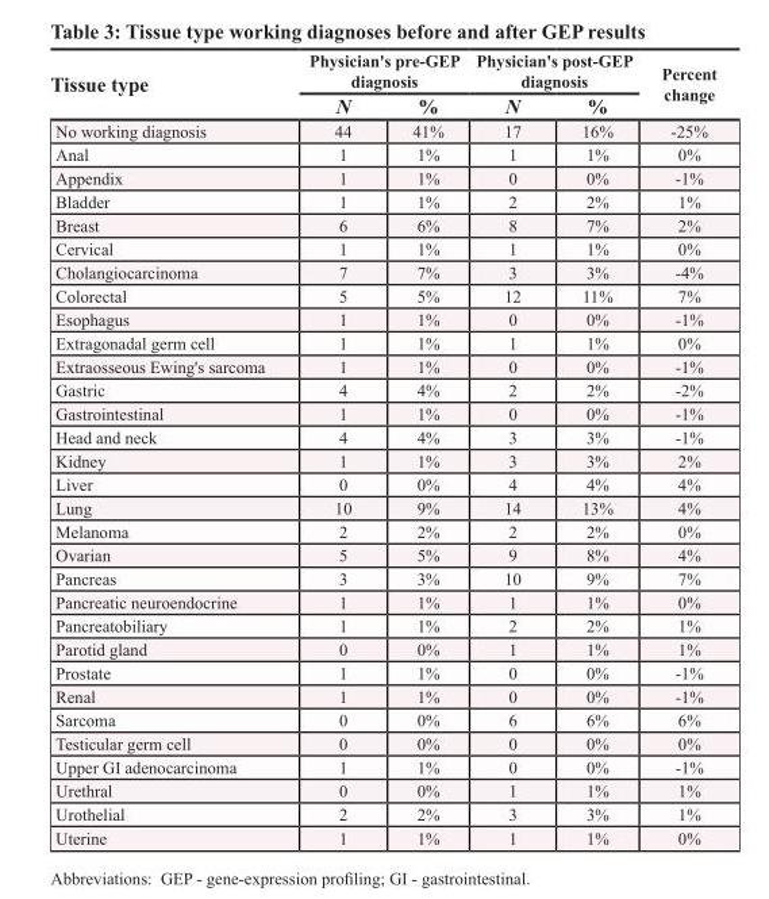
<table><thead><tr><td rowspan="2">Tissue type</td><td colspan="2">Physician&#x27;s pre-GEP diagnosis</td><td colspan="2">Physician&#x27;s post-GEP diagnosis</td><td rowspan="2">Percent change</td></tr><tr><td>N</td><td>%</td><td>N</td><td>%</td></tr></thead><tbody><tr><td>No working diagnosis</td><td>44</td><td>41%</td><td>17</td><td>16%</td><td>-25%</td></tr><tr><td>Anal</td><td>1</td><td>1%</td><td>1</td><td>1%</td><td>0%</td></tr><tr><td>Appendix</td><td>1</td><td>1%</td><td>0</td><td>0%</td><td>-1%</td></tr><tr><td>Bladder</td><td>1</td><td>1%</td><td>2</td><td>2%</td><td>1%</td></tr><tr><td>Breast</td><td>6</td><td>6%</td><td>8</td><td>7%</td><td>2%</td></tr><tr><td>Cervical</td><td>1</td><td>1%</td><td>1</td><td>1%</td><td>0%</td></tr><tr><td>Cholangiocarcinoma</td><td>7</td><td>7%</td><td>3</td><td>3%</td><td>-4%</td></tr><tr><td>Colorectal</td><td>5</td><td>5%</td><td>12</td><td>11%</td><td>7%</td></tr><tr><td>Esophagus</td><td>1</td><td>1%</td><td>0</td><td>0%</td><td>-1%</td></tr><tr><td>Extragonadal germ cell</td><td>1</td><td>1%</td><td>1</td><td>1%</td><td>0%</td></tr><tr><td>Extraosseous Ewing&#x27;s sarcoma</td><td>1</td><td>1%</td><td>0</td><td>0%</td><td>-1%</td></tr><tr><td>Gastric</td><td>4</td><td>4%</td><td>2</td><td>2%</td><td>-2%</td></tr><tr><td>Gastrointestinal</td><td>1</td><td>1%</td><td>0</td><td>0%</td><td>-1%</td></tr><tr><td>Head and neck</td><td>4</td><td>4%</td><td>3</td><td>3%</td><td>-1%</td></tr><tr><td>Kidney</td><td>1</td><td>1%</td><td>3</td><td>3%</td><td>2%</td></tr><tr><td>Liver</td><td>0</td><td>0%</td><td>4</td><td>4%</td><td>4%</td></tr><tr><td>Lung</td><td>10</td><td>9%</td><td>14</td><td>13%</td><td>4%</td></tr><tr><td>Melanoma</td><td>2</td><td>2%</td><td>2</td><td>2%</td><td>0%</td></tr><tr><td>Ovarian</td><td>5</td><td>5%</td><td>9</td><td>8%</td><td>4%</td></tr><tr><td>Pancreas</td><td>3</td><td>3%</td><td>10</td><td>9%</td><td>7%</td></tr><tr><td>Pancreatic neuroendocrine</td><td>1</td><td>1%</td><td>1</td><td>1%</td><td>0%</td></tr><tr><td>Pancreatobiliary</td><td>1</td><td>1%</td><td>2</td><td>2%</td><td>1%</td></tr><tr><td>Parotid gland</td><td>0</td><td>0%</td><td>1</td><td>1%</td><td>1%</td></tr><tr><td>Prostate</td><td>1</td><td>1%</td><td>0</td><td>0%</td><td>-1%</td></tr><tr><td>Renal</td><td>1</td><td>1%</td><td>0</td><td>0%</td><td>-1%</td></tr><tr><td>Sarcoma</td><td>0</td><td>0%</td><td>6</td><td>6%</td><td>6%</td></tr><tr><td>Testicular germ cell</td><td>0</td><td>0%</td><td>0</td><td>0%</td><td>0%</td></tr><tr><td>Upper GI adenocarcinoma</td><td>1</td><td>1%</td><td>0</td><td>0%</td><td>-1%</td></tr><tr><td>Urethral</td><td>0</td><td>0%</td><td>1</td><td>1%</td><td>1%</td></tr><tr><td>Urothelial</td><td>2</td><td>2%</td><td>3</td><td>3%</td><td>1%</td></tr><tr><td>Uterine</td><td>1</td><td>1%</td><td>1</td><td>1%</td><td>0%</td></tr></tbody></table>